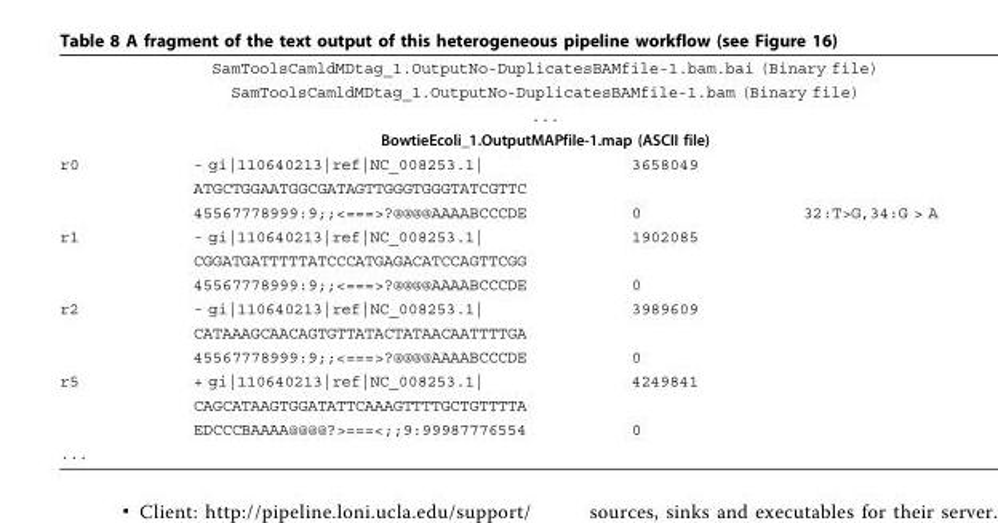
<table><tbody><tr><td colspan="4">SamToolsCamldMDtag_1.OutputNo-DuplicatesBAMfile-1.bam.bai (Binary file)</td></tr><tr><td colspan="4">SamToolsCamldMDtag_1.OutputNo-DuplicatesBAMfile-1.bam (Binary file)</td></tr><tr><td colspan="4">...</td></tr><tr><td colspan="4">BowtieEcoli_1.OutputMAPfile-1.map (ASCII file)</td></tr><tr><td rowspan="3">r0</td><td>- gi|110640213|ref|NC_008253.1|</td><td>3658049</td><td></td></tr><tr><td>ATGCTGGAATGGCGATAGTTGGGTGGGTATCGTTC</td><td></td><td></td></tr><tr><td>45567778999:9;;&lt;===&gt;?@@@@AAAABCCCDE</td><td>0</td><td>32:T&gt;G,34:G &gt; A</td></tr><tr><td rowspan="3">r1</td><td>- gi|110640213|ref|NC_008253.1|</td><td>1902085</td><td></td></tr><tr><td>CGGATGATTTTTATCCCATGAGACATCCAGTTCGG</td><td></td><td></td></tr><tr><td>45567778999:9;;&lt;===&gt;?@@@@AAAABCCCDE</td><td>0</td><td></td></tr><tr><td rowspan="3">r2</td><td>- gi|110640213|ref|NC_008253.1|</td><td>3989609</td><td></td></tr><tr><td>CATAAAGCAACAGTGTTATACTATAACAATTTTGA</td><td></td><td></td></tr><tr><td>45567778999:9;;&lt;===&gt;?@@@@AAAABCCCDE</td><td>0</td><td></td></tr><tr><td rowspan="3">r5</td><td>+ gi|110640213|ref|NC_008253.1|</td><td>4249841</td><td></td></tr><tr><td>CAGCATAAGTGGATATTCAAAGTTTTGCTGTTTTA</td><td></td><td></td></tr><tr><td>EDCCCBAAAA@@@@?&gt;===&lt;;;9:99987776554</td><td>0</td><td></td></tr><tr><td>...</td><td></td><td></td><td></td></tr></tbody></table>